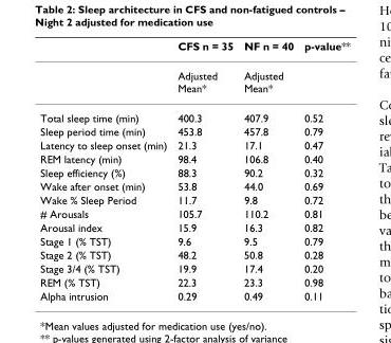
<table><thead><tr><td></td><td>CFS n = 35</td><td>NF n = 40</td><td>p-value**</td></tr></thead><tbody><tr><td></td><td>Adjusted Mean*</td><td>Adjusted Mean*</td><td></td></tr><tr><td>Total sleep time (min)</td><td>400.3</td><td>407.9</td><td>0.52</td></tr><tr><td>Sleep period time (min)</td><td>453.8</td><td>457.8</td><td>0.79</td></tr><tr><td>Latency to sleep onset (min)</td><td>21.3</td><td>17.1</td><td>0.47</td></tr><tr><td>REM latency (min)</td><td>98.4</td><td>106.8</td><td>0.40</td></tr><tr><td>Sleep efficiency (%)</td><td>88.3</td><td>90.2</td><td>0.32</td></tr><tr><td>Wake after onset (min)</td><td>53.8</td><td>44.0</td><td>0.69</td></tr><tr><td>Wake % Sleep Period</td><td>11.7</td><td>9.8</td><td>0.72</td></tr><tr><td># Arousals</td><td>105.7</td><td>110.2</td><td>0.81</td></tr><tr><td>Arousal index</td><td>15.9</td><td>16.3</td><td>0.82</td></tr><tr><td>Stage 1 (% TST)</td><td>9.6</td><td>9.5</td><td>0.79</td></tr><tr><td>Stage 2 (% TST)</td><td>48.2</td><td>50.8</td><td>0.28</td></tr><tr><td>Stage 3/4 (% TST)</td><td>19.9</td><td>17.4</td><td>0.20</td></tr><tr><td>REM (% TST)</td><td>22.3</td><td>23.3</td><td>0.98</td></tr><tr><td>Alpha intrusion</td><td>0.29</td><td>0.49</td><td>0.11</td></tr></tbody></table>